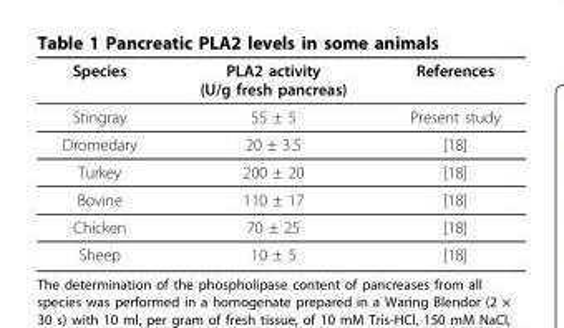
<table><thead><tr><td>Species</td><td>PLA2 activity (U/g fresh pancreas)</td><td>References</td></tr></thead><tbody><tr><td>Stingray</td><td>55 ± 5</td><td>Present study</td></tr><tr><td>Dromedary</td><td>20 ± 3.5</td><td>[18]</td></tr><tr><td>Turkey</td><td>200 ± 20</td><td>[18]</td></tr><tr><td>Bovine</td><td>110 ± 17</td><td>[18]</td></tr><tr><td>Chicken</td><td>70 ± 25</td><td>[18]</td></tr><tr><td>Sheep</td><td>10 ± 5</td><td>[18]</td></tr></tbody></table>